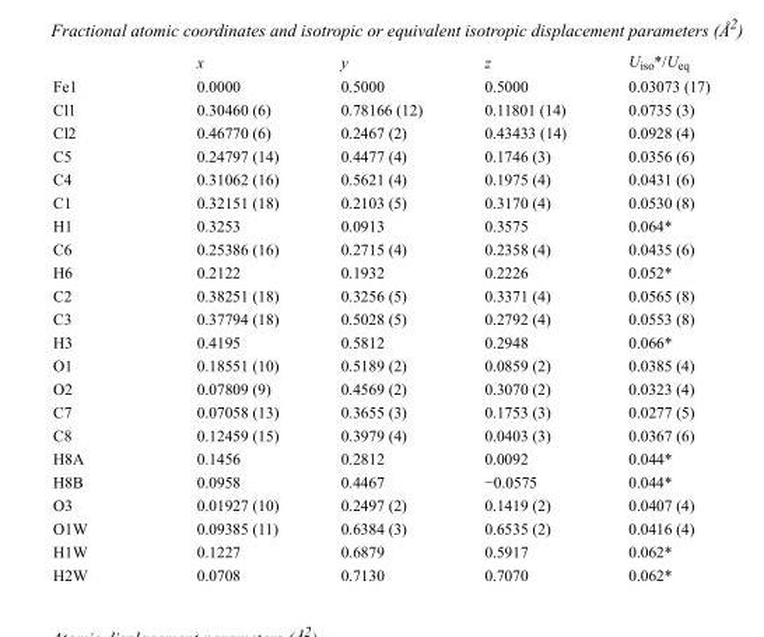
<table><thead><tr><td></td><td>x</td><td>y</td><td>z</td><td>U<sub>iso</sub>*/U<sub>eq</sub></td></tr></thead><tbody><tr><td>Fe1</td><td>0.0000</td><td>0.5000</td><td>0.5000</td><td>0.03073 (17)</td></tr><tr><td>Cl1</td><td>0.30460 (6)</td><td>0.78166 (12)</td><td>0.11801 (14)</td><td>0.0735 (3)</td></tr><tr><td>Cl2</td><td>0.46770 (6)</td><td>0.2467 (2)</td><td>0.43433 (14)</td><td>0.0928 (4)</td></tr><tr><td>C5</td><td>0.24797 (14)</td><td>0.4477 (4)</td><td>0.1746 (3)</td><td>0.0356 (6)</td></tr><tr><td>C4</td><td>0.31062 (16)</td><td>0.5621 (4)</td><td>0.1975 (4)</td><td>0.0431 (6)</td></tr><tr><td>C1</td><td>0.32151 (18)</td><td>0.2103 (5)</td><td>0.3170 (4)</td><td>0.0530 (8)</td></tr><tr><td>H1</td><td>0.3253</td><td>0.0913</td><td>0.3575</td><td>0.064*</td></tr><tr><td>C6</td><td>0.25386 (16)</td><td>0.2715 (4)</td><td>0.2358 (4)</td><td>0.0435 (6)</td></tr><tr><td>H6</td><td>0.2122</td><td>0.1932</td><td>0.2226</td><td>0.052*</td></tr><tr><td>C2</td><td>0.38251 (18)</td><td>0.3256 (5)</td><td>0.3371 (4)</td><td>0.0565 (8)</td></tr><tr><td>C3</td><td>0.37794 (18)</td><td>0.5028 (5)</td><td>0.2792 (4)</td><td>0.0553 (8)</td></tr><tr><td>H3</td><td>0.4195</td><td>0.5812</td><td>0.2948</td><td>0.066*</td></tr><tr><td>O1</td><td>0.18551 (10)</td><td>0.5189 (2)</td><td>0.0859 (2)</td><td>0.0385 (4)</td></tr><tr><td>O2</td><td>0.07809 (9)</td><td>0.4569 (2)</td><td>0.3070 (2)</td><td>0.0323 (4)</td></tr><tr><td>C7</td><td>0.07058 (13)</td><td>0.3655 (3)</td><td>0.1753 (3)</td><td>0.0277 (5)</td></tr><tr><td>C8</td><td>0.12459 (15)</td><td>0.3979 (4)</td><td>0.0403 (3)</td><td>0.0367 (6)</td></tr><tr><td>H8A</td><td>0.1456</td><td>0.2812</td><td>0.0092</td><td>0.044*</td></tr><tr><td>H8B</td><td>0.0958</td><td>0.4467</td><td>−0.0575</td><td>0.044*</td></tr><tr><td>O3</td><td>0.01927 (10)</td><td>0.2497 (2)</td><td>0.1419 (2)</td><td>0.0407 (4)</td></tr><tr><td>O1W</td><td>0.09385 (11)</td><td>0.6384 (3)</td><td>0.6535 (2)</td><td>0.0416 (4)</td></tr><tr><td>H1W</td><td>0.1227</td><td>0.6879</td><td>0.5917</td><td>0.062*</td></tr><tr><td>H2W</td><td>0.0708</td><td>0.7130</td><td>0.7070</td><td>0.062*</td></tr></tbody></table>